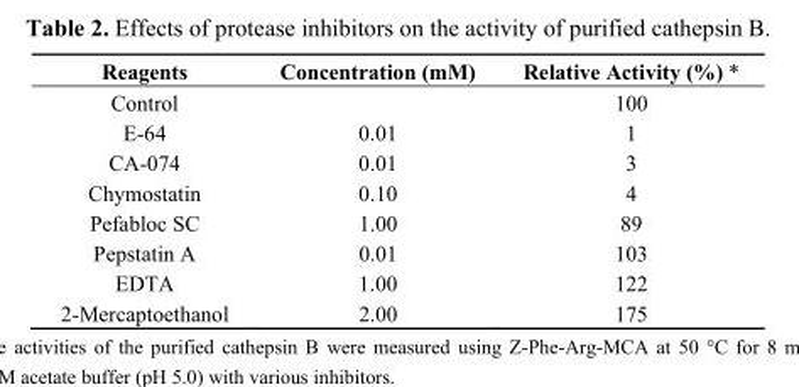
<table><thead><tr><td>Reagents</td><td>Concentration (mM)</td><td>Relative Activity (%) *</td></tr></thead><tbody><tr><td>Control</td><td></td><td>100</td></tr><tr><td>E-64</td><td>0.01</td><td>1</td></tr><tr><td>CA-074</td><td>0.01</td><td>3</td></tr><tr><td>Chymostatin</td><td>0.10</td><td>4</td></tr><tr><td>Pefabloc SC</td><td>1.00</td><td>89</td></tr><tr><td>Pepstatin A</td><td>0.01</td><td>103</td></tr><tr><td>EDTA</td><td>1.00</td><td>122</td></tr><tr><td>2-Mercaptoethanol</td><td>2.00</td><td>175</td></tr></tbody></table>